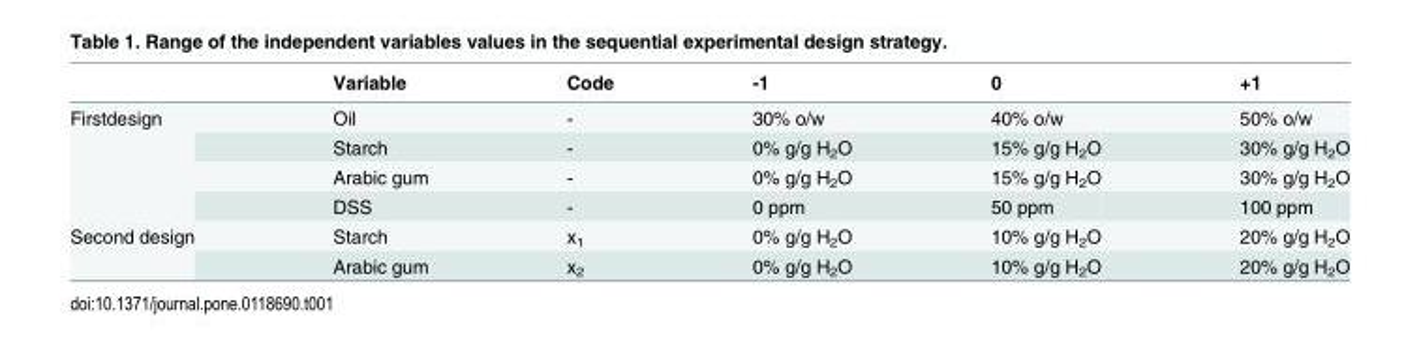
<table><thead><tr><td></td><td>Variable</td><td>Code</td><td>-1</td><td>0</td><td>+1</td></tr></thead><tbody><tr><td rowspan="4">Firstdesign</td><td>Oil</td><td>-</td><td>30% o/w</td><td>40% o/w</td><td>50% o/w</td></tr><tr><td>Starch</td><td>-</td><td>0% g/g H<sub>2</sub>O</td><td>15% g/g H<sub>2</sub>O</td><td>30% g/g H<sub>2</sub>O</td></tr><tr><td>Arabic gum</td><td>-</td><td>0% g/g H<sub>2</sub>O</td><td>15% g/g H<sub>2</sub>O</td><td>30% g/g H<sub>2</sub>O</td></tr><tr><td>DSS</td><td>-</td><td>0 ppm</td><td>50 ppm</td><td>100 ppm</td></tr><tr><td rowspan="2">Second design</td><td>Starch</td><td>x<sub>1</sub></td><td>0% g/g H<sub>2</sub>O</td><td>10% g/g H<sub>2</sub>O</td><td>20% g/g H<sub>2</sub>O</td></tr><tr><td>Arabic gum</td><td>x<sub>2</sub></td><td>0% g/g H<sub>2</sub>O</td><td>10% g/g H<sub>2</sub>O</td><td>20% g/g H<sub>2</sub>O</td></tr></tbody></table>